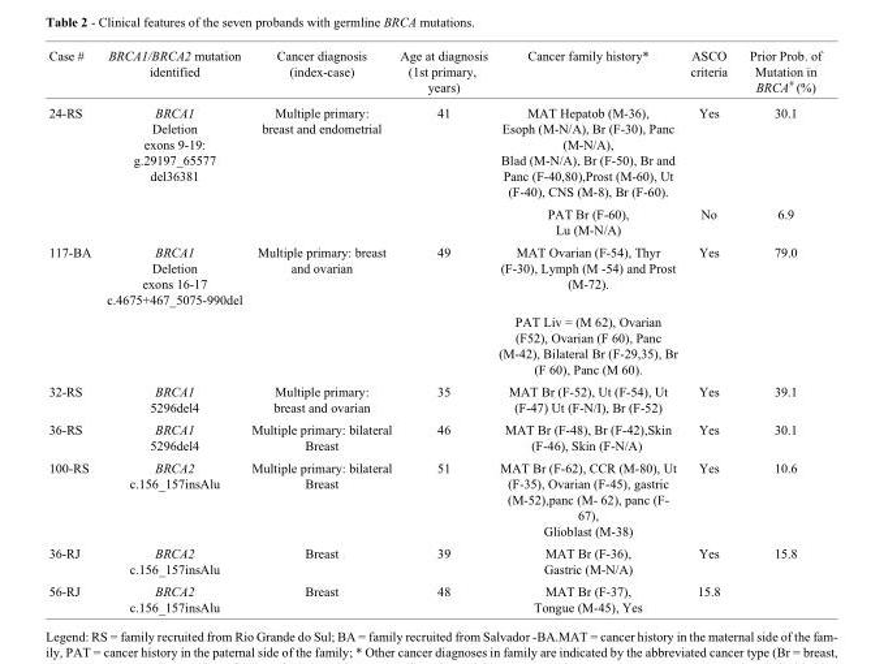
<table><thead><tr><td>Case #</td><td>BRCA1/BRCA2 mutation identified</td><td>Cancer diagnosis (index-case)</td><td>Age at diagnosis (1st primary, years)</td><td>Cancer family history*</td><td>ASCO criteria</td><td>Prior Prob. of Mutation in BRCA# (%)</td></tr></thead><tbody><tr><td rowspan="2">24-RS</td><td>BRCA1 Deletion exons 9-19: g.29197_65577 del36381</td><td>Multiple primary: breast and endometrial</td><td>41</td><td>MAT Hepatob (M-36), Esoph (M-N/A), Br (F-30), Panc (M-N/A), Blad (M-N/A), Br (F-50), Br and Panc (F-40,80),Prost (M-60), Ut (F-40), CNS (M-8), Br (F-60).</td><td>Yes</td><td>30.1</td></tr><tr><td></td><td></td><td></td><td>PAT Br (F-60), Lu (M-N/A)</td><td>No</td><td>6.9</td></tr><tr><td rowspan="2">117-BA</td><td>BRCA1 Deletion exons 16-17 c.4675+467_5075-990del</td><td>Multiple primary: breast and ovarian</td><td>49</td><td>MAT Ovarian (F-54), Thyr (F-30), Lymph (M -54) and Prost (M-72).</td><td>Yes</td><td>79.0</td></tr><tr><td></td><td></td><td></td><td>PAT Liv = (M 62), Ovarian (F52), Ovarian (F 60), Panc (M-42), Bilateral Br (F-29,35), Br (F 60), Panc (M 60).</td><td></td><td></td></tr><tr><td>32-RS</td><td>BRCA1 5296del4</td><td>Multiple primary: breast and ovarian</td><td>35</td><td>MAT Br (F-52), Ut (F-54), Ut (F-47) Ut (F-N/I), Br (F-52)</td><td>Yes</td><td>39.1</td></tr><tr><td>36-RS</td><td>BRCA1 5296del4</td><td>Multiple primary: bilateral Breast</td><td>46</td><td>MAT Br (F-48), Br (F-42),Skin (F-46), Skin (F-N/A)</td><td>Yes</td><td>30.1</td></tr><tr><td>100-RS</td><td>BRCA2 c.156_157insAlu</td><td>Multiple primary: bilateral Breast</td><td>51</td><td>MAT Br (F-62), CCR (M-80), Ut (F-35), Ovarian (F-45), gastric (M-52),panc (M- 62), panc (F- 67), Glioblast (M-38)</td><td>Yes</td><td>10.6</td></tr><tr><td>36-RJ</td><td>BRCA2 c.156_157insAlu</td><td>Breast</td><td>39</td><td>MAT Br (F-36), Gastric (M-N/A)</td><td>Yes</td><td>15.8</td></tr><tr><td>56-RJ</td><td>BRCA2 c.156_157insAlu</td><td>Breast</td><td>48</td><td>MAT Br (F-37), Tongue (M-45), Yes</td><td>15.8</td><td></td></tr></tbody></table>